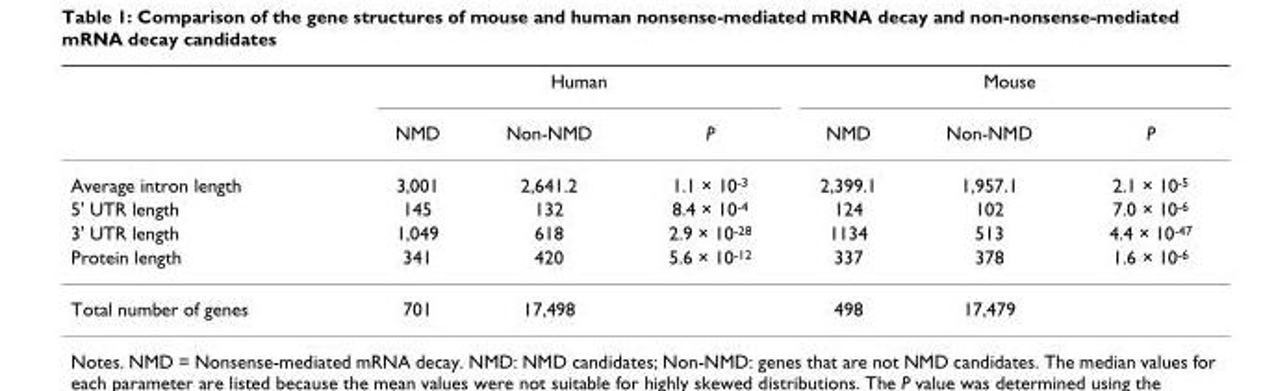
<table><thead><tr><td rowspan="2"></td><td colspan="3">Human</td><td colspan="3">Mouse</td></tr><tr><td>NMD</td><td>Non-NMD</td><td>P</td><td>NMD</td><td>Non-NMD</td><td>P</td></tr></thead><tbody><tr><td>Average intron length</td><td>3,001</td><td>2,641.2</td><td>1.1 × 10<sup>-3</sup></td><td>2,399.1</td><td>1,957.1</td><td>2.1 × 10<sup>-5</sup></td></tr><tr><td>5&#x27; UTR length</td><td>145</td><td>132</td><td>8.4 × 10<sup>-4</sup></td><td>124</td><td>102</td><td>7.0 × 10<sup>-6</sup></td></tr><tr><td>3&#x27; UTR length</td><td>1,049</td><td>618</td><td>2.9 × 10<sup>-28</sup></td><td>1134</td><td>513</td><td>4.4 × 10<sup>-47</sup></td></tr><tr><td>Protein length</td><td>341</td><td>420</td><td>5.6 × 10<sup>-12</sup></td><td>337</td><td>378</td><td>1.6 × 10<sup>-6</sup></td></tr><tr><td>Total number of genes</td><td>701</td><td>17,498</td><td></td><td>498</td><td>17,479</td><td></td></tr></tbody></table>